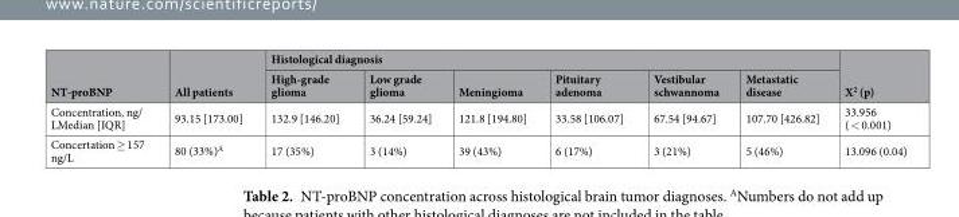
<table><thead><tr><td rowspan="2">NT-proBNP</td><td rowspan="2">All patients</td><td colspan="6">Histological diagnosis</td><td rowspan="2">X<sup>2</sup> (p)</td></tr><tr><td>High-grade glioma</td><td>Low grade glioma</td><td>Meningioma</td><td>Pituitary adenoma</td><td>Vestibular schwannoma</td><td>Metastatic disease</td></tr></thead><tbody><tr><td>Concentration, ng/ LMedian [IQR]</td><td>93.15 [173.00]</td><td>132.9 [146.20]</td><td>36.24 [59.24]</td><td>121.8 [194.80]</td><td>33.58 [106.07]</td><td>67.54 [94.67]</td><td>107.70 [426.82]</td><td>33.956 ( &lt; 0.001)</td></tr><tr><td>Concertation ≥ 157 ng/L</td><td>80 (33%)<sup>A</sup></td><td>17 (35%)</td><td>3 (14%)</td><td>39 (43%)</td><td>6 (17%)</td><td>3 (21%)</td><td>5 (46%)</td><td>13.096 (0.04)</td></tr></tbody></table>